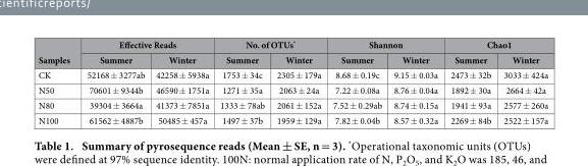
<table><thead><tr><td rowspan="2">Samples</td><td colspan="2">Effective Reads</td><td colspan="2">No. of OTUs*</td><td colspan="2">Shannon</td><td colspan="2">Chao1</td></tr><tr><td>Summer</td><td>Winter</td><td>Summer</td><td>Winter</td><td>Summer</td><td>Winter</td><td>Summer</td><td>Winter</td></tr></thead><tbody><tr><td>CK</td><td>52168 ± 3277ab</td><td>42258 ± 5938a</td><td>1753 ± 34c</td><td>2305 ± 179a</td><td>8.68 ± 0.19c</td><td>9.15 ± 0.03a</td><td>2473 ± 32b</td><td>3033 ± 424a</td></tr><tr><td>N50</td><td>70601 ± 9344b</td><td>46590 ± 1751a</td><td>1271 ± 35a</td><td>2063 ± 24a</td><td>7.22 ± 0.08a</td><td>8.76 ± 0.04a</td><td>1892 ± 30a</td><td>2664 ± 42a</td></tr><tr><td>N80</td><td>39304 ± 3664a</td><td>41373 ± 7851a</td><td>1333 ± 78ab</td><td>2061 ± 152a</td><td>7.52 ± 0.29ab</td><td>8.74 ± 0.15a</td><td>1941 ± 93a</td><td>2577 ± 260a</td></tr><tr><td>N100</td><td>61562 ± 4887b</td><td>50485 ± 457a</td><td>1497 ± 37b</td><td>1959 ± 129a</td><td>7.82 ± 0.04b</td><td>8.57 ± 0.32a</td><td>2269 ± 84b</td><td>2522 ± 157a</td></tr></tbody></table>